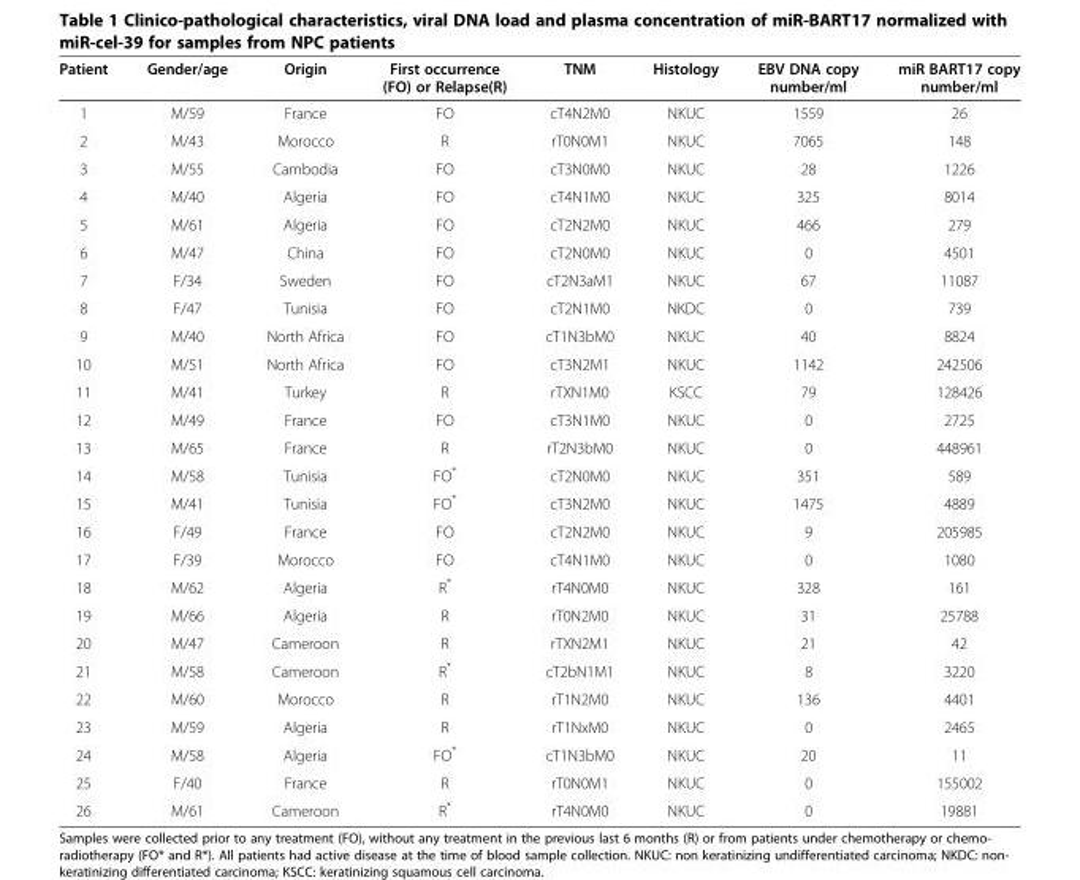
<table><thead><tr><td>Patient</td><td>Gender/age</td><td>Origin</td><td>First occurrence (FO) or Relapse(R)</td><td>TNM</td><td>Histology</td><td>EBV DNA copy number/ml</td><td>miR BART17 copy number/ml</td></tr></thead><tbody><tr><td>1</td><td>M/59</td><td>France</td><td>FO</td><td>cT4N2M0</td><td>NKUC</td><td>1559</td><td>26</td></tr><tr><td>2</td><td>M/43</td><td>Morocco</td><td>R</td><td>rT0N0M1</td><td>NKUC</td><td>7065</td><td>148</td></tr><tr><td>3</td><td>M/55</td><td>Cambodia</td><td>FO</td><td>cT3N0M0</td><td>NKUC</td><td>28</td><td>1226</td></tr><tr><td>4</td><td>M/40</td><td>Algeria</td><td>FO</td><td>cT4N1M0</td><td>NKUC</td><td>325</td><td>8014</td></tr><tr><td>5</td><td>M/61</td><td>Algeria</td><td>FO</td><td>cT2N2M0</td><td>NKUC</td><td>466</td><td>279</td></tr><tr><td>6</td><td>M/47</td><td>China</td><td>FO</td><td>cT2N0M0</td><td>NKUC</td><td>0</td><td>4501</td></tr><tr><td>7</td><td>F/34</td><td>Sweden</td><td>FO</td><td>cT2N3aM1</td><td>NKUC</td><td>67</td><td>11087</td></tr><tr><td>8</td><td>F/47</td><td>Tunisia</td><td>FO</td><td>cT2N1M0</td><td>NKDC</td><td>0</td><td>739</td></tr><tr><td>9</td><td>M/40</td><td>North Africa</td><td>FO</td><td>cT1N3bM0</td><td>NKUC</td><td>40</td><td>8824</td></tr><tr><td>10</td><td>M/51</td><td>North Africa</td><td>FO</td><td>cT3N2M1</td><td>NKUC</td><td>1142</td><td>242506</td></tr><tr><td>11</td><td>M/41</td><td>Turkey</td><td>R</td><td>rTXN1M0</td><td>KSCC</td><td>79</td><td>128426</td></tr><tr><td>12</td><td>M/49</td><td>France</td><td>FO</td><td>cT3N1M0</td><td>NKUC</td><td>0</td><td>2725</td></tr><tr><td>13</td><td>M/65</td><td>France</td><td>R</td><td>rT2N3bM0</td><td>NKUC</td><td>0</td><td>448961</td></tr><tr><td>14</td><td>M/58</td><td>Tunisia</td><td>FO*</td><td>cT2N0M0</td><td>NKUC</td><td>351</td><td>589</td></tr><tr><td>15</td><td>M/41</td><td>Tunisia</td><td>FO*</td><td>cT3N2M0</td><td>NKUC</td><td>1475</td><td>4889</td></tr><tr><td>16</td><td>F/49</td><td>France</td><td>FO</td><td>cT2N2M0</td><td>NKUC</td><td>9</td><td>205985</td></tr><tr><td>17</td><td>F/39</td><td>Morocco</td><td>FO</td><td>cT4N1M0</td><td>NKUC</td><td>0</td><td>1080</td></tr><tr><td>18</td><td>M/62</td><td>Algeria</td><td>R*</td><td>rT4N0M0</td><td>NKUC</td><td>328</td><td>161</td></tr><tr><td>19</td><td>M/66</td><td>Algeria</td><td>R</td><td>rT0N2M0</td><td>NKUC</td><td>31</td><td>25788</td></tr><tr><td>20</td><td>M/47</td><td>Cameroon</td><td>R</td><td>rTXN2M1</td><td>NKUC</td><td>21</td><td>42</td></tr><tr><td>21</td><td>M/58</td><td>Cameroon</td><td>R*</td><td>cT2bN1M1</td><td>NKUC</td><td>8</td><td>3220</td></tr><tr><td>22</td><td>M/60</td><td>Morocco</td><td>R</td><td>rT1N2M0</td><td>NKUC</td><td>136</td><td>4401</td></tr><tr><td>23</td><td>M/59</td><td>Algeria</td><td>R</td><td>rT1NxM0</td><td>NKUC</td><td>0</td><td>2465</td></tr><tr><td>24</td><td>M/58</td><td>Algeria</td><td>FO*</td><td>cT1N3bM0</td><td>NKUC</td><td>20</td><td>11</td></tr><tr><td>25</td><td>F/40</td><td>France</td><td>R</td><td>rT0N0M1</td><td>NKUC</td><td>0</td><td>155002</td></tr><tr><td>26</td><td>M/61</td><td>Cameroon</td><td>R*</td><td>rT4N0M0</td><td>NKUC</td><td>0</td><td>19881</td></tr></tbody></table>